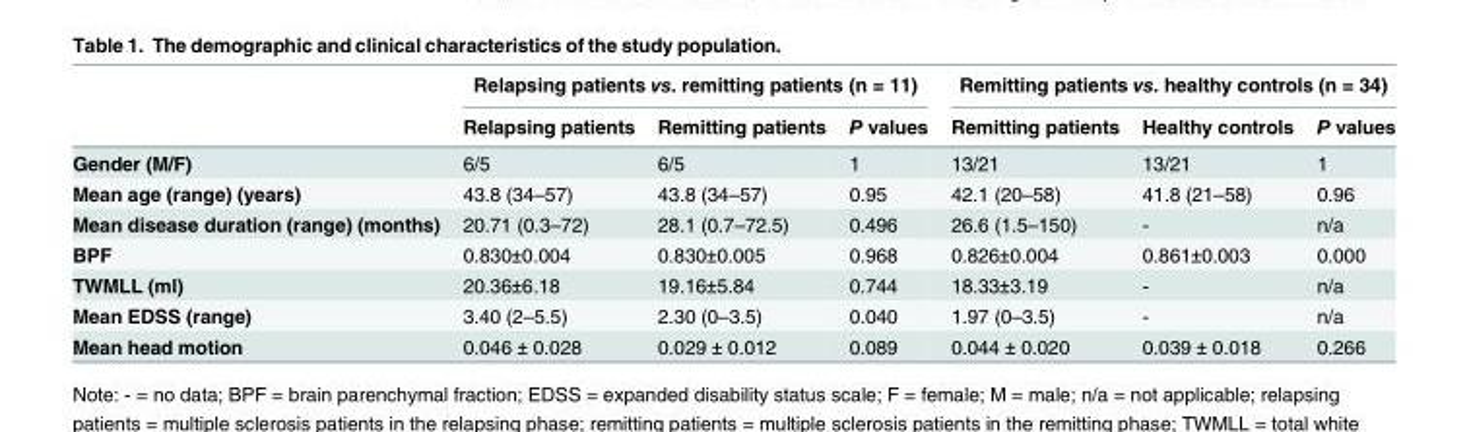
<table><thead><tr><td rowspan="2"></td><td colspan="3">Relapsing patients vs. remitting patients (n = 11)</td><td colspan="3">Remitting patients vs. healthy controls (n = 34)</td></tr><tr><td>Relapsing patients</td><td>Remitting patients</td><td>P values</td><td>Remitting patients</td><td>Healthy controls</td><td>P values</td></tr></thead><tbody><tr><td>Gender (M/F)</td><td>6/5</td><td>6/5</td><td>1</td><td>13/21</td><td>13/21</td><td>1</td></tr><tr><td>Mean age (range) (years)</td><td>43.8 (34–57)</td><td>43.8 (34–57)</td><td>0.95</td><td>42.1 (20–58)</td><td>41.8 (21–58)</td><td>0.96</td></tr><tr><td>Mean disease duration (range) (months)</td><td>20.71 (0.3–72)</td><td>28.1 (0.7–72.5)</td><td>0.496</td><td>26.6 (1.5–150)</td><td>-</td><td>n/a</td></tr><tr><td>BPF</td><td>0.830±0.004</td><td>0.830±0.005</td><td>0.968</td><td>0.826±0.004</td><td>0.861±0.003</td><td>0.000</td></tr><tr><td>TWMLL (ml)</td><td>20.36±6.18</td><td>19.16±5.84</td><td>0.744</td><td>18.33±3.19</td><td>-</td><td>n/a</td></tr><tr><td>Mean EDSS (range)</td><td>3.40 (2–5.5)</td><td>2.30 (0–3.5)</td><td>0.040</td><td>1.97 (0–3.5)</td><td>-</td><td>n/a</td></tr><tr><td>Mean head motion</td><td>0.046 ± 0.028</td><td>0.029 ± 0.012</td><td>0.089</td><td>0.044 ± 0.020</td><td>0.039 ± 0.018</td><td>0.266</td></tr></tbody></table>